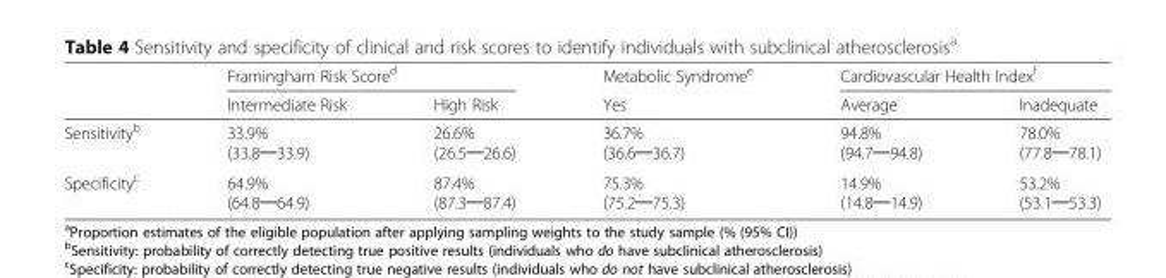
<table><thead><tr><td rowspan="2"></td><td colspan="2">Framingham Risk Score<sup>d</sup></td><td rowspan="2">Metabolic Syndrome<sup>e</sup> Yes</td><td colspan="2">Cardiovascular Health Index<sup>f</sup></td></tr><tr><td>Intermediate Risk</td><td>High Risk</td><td>Average</td><td>Inadequate</td></tr></thead><tbody><tr><td>Sensitivity<sup>b</sup></td><td>33.9% (33.8─33.9)</td><td>26.6% (26.5─26.6)</td><td>36.7% (36.6─36.7)</td><td>94.8% (94.7─94.8)</td><td>78.0% (77.8─78.1)</td></tr><tr><td>Specificity<sup>c</sup></td><td>64.9% (64.8─64.9)</td><td>87.4% (87.3─87.4)</td><td>75.3% (75.2─75.3)</td><td>14.9% (14.8─14.9)</td><td>53.2% (53.1─53.3)</td></tr></tbody></table>